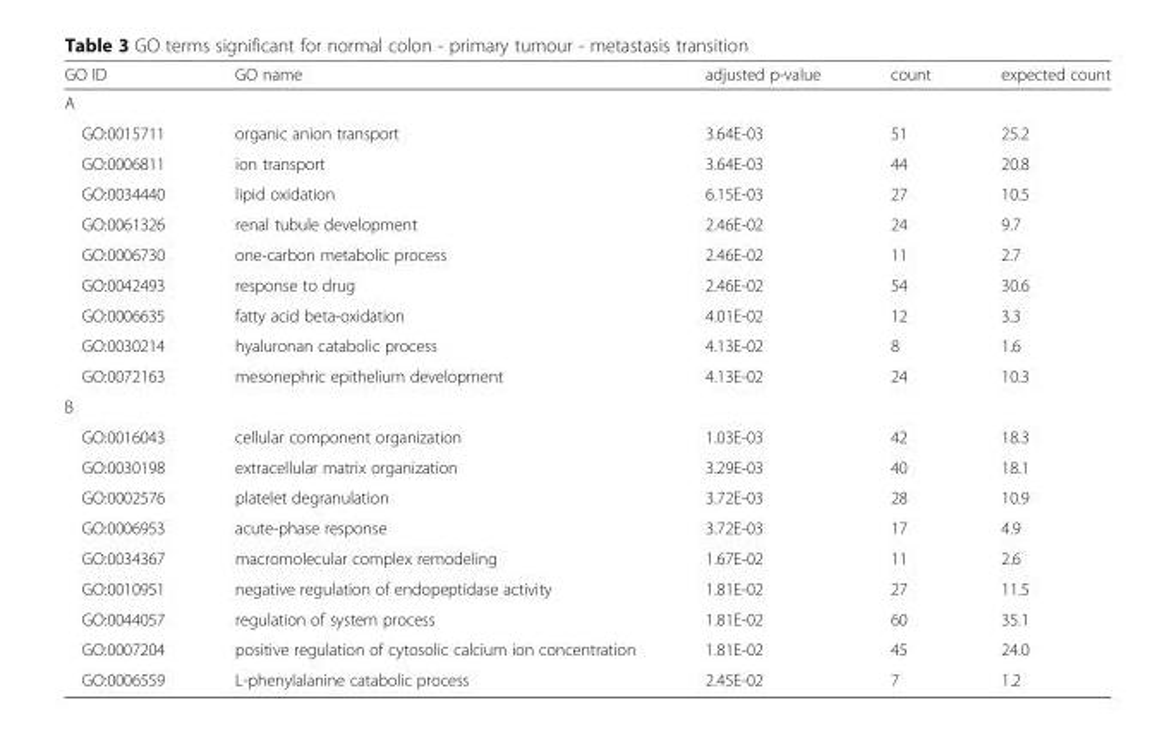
<table><thead><tr><td>GO ID</td><td>GO name</td><td>adjusted p-value</td><td>count</td><td>expected count</td></tr></thead><tbody><tr><td colspan="5">A</td></tr><tr><td>GO:0015711</td><td>organic anion transport</td><td>3.64E-03</td><td>51</td><td>25.2</td></tr><tr><td>GO:0006811</td><td>ion transport</td><td>3.64E-03</td><td>44</td><td>20.8</td></tr><tr><td>GO:0034440</td><td>lipid oxidation</td><td>6.15E-03</td><td>27</td><td>10.5</td></tr><tr><td>GO:0061326</td><td>renal tubule development</td><td>2.46E-02</td><td>24</td><td>9.7</td></tr><tr><td>GO:0006730</td><td>one-carbon metabolic process</td><td>2.46E-02</td><td>11</td><td>2.7</td></tr><tr><td>GO:0042493</td><td>response to drug</td><td>2.46E-02</td><td>54</td><td>30.6</td></tr><tr><td>GO:0006635</td><td>fatty acid beta-oxidation</td><td>4.01E-02</td><td>12</td><td>3.3</td></tr><tr><td>GO:0030214</td><td>hyaluronan catabolic process</td><td>4.13E-02</td><td>8</td><td>1.6</td></tr><tr><td>GO:0072163</td><td>mesonephric epithelium development</td><td>4.13E-02</td><td>24</td><td>10.3</td></tr><tr><td colspan="5">B</td></tr><tr><td>GO:0016043</td><td>cellular component organization</td><td>1.03E-03</td><td>42</td><td>18.3</td></tr><tr><td>GO:0030198</td><td>extracellular matrix organization</td><td>3.29E-03</td><td>40</td><td>18.1</td></tr><tr><td>GO:0002576</td><td>platelet degranulation</td><td>3.72E-03</td><td>28</td><td>10.9</td></tr><tr><td>GO:0006953</td><td>acute-phase response</td><td>3.72E-03</td><td>17</td><td>4.9</td></tr><tr><td>GO:0034367</td><td>macromolecular complex remodeling</td><td>1.67E-02</td><td>11</td><td>2.6</td></tr><tr><td>GO:0010951</td><td>negative regulation of endopeptidase activity</td><td>1.81E-02</td><td>27</td><td>11.5</td></tr><tr><td>GO:0044057</td><td>regulation of system process</td><td>1.81E-02</td><td>60</td><td>35.1</td></tr><tr><td>GO:0007204</td><td>positive regulation of cytosolic calcium ion concentration</td><td>1.81E-02</td><td>45</td><td>24.0</td></tr><tr><td>GO:0006559</td><td>L-phenylalanine catabolic process</td><td>2.45E-02</td><td>7</td><td>1.2</td></tr></tbody></table>